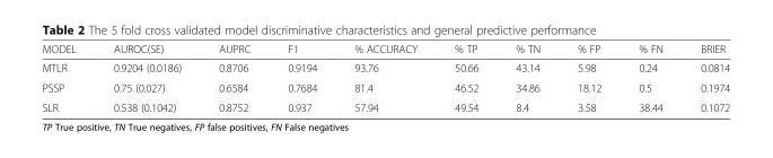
<table><thead><tr><td>MODEL</td><td>AUROC(SE)</td><td>AUPRC</td><td>F1</td><td>% ACCURACY</td><td>% TP</td><td>% TN</td><td>% FP</td><td>% FN</td><td>BRIER</td></tr></thead><tbody><tr><td>MTLR</td><td>0.9204 (0.0186)</td><td>0.8706</td><td>0.9194</td><td>93.76</td><td>50.66</td><td>43.14</td><td>5.98</td><td>0.24</td><td>0.0814</td></tr><tr><td>PSSP</td><td>0.75 (0.027)</td><td>0.6584</td><td>0.7684</td><td>81.4</td><td>46.52</td><td>34.86</td><td>18.12</td><td>0.5</td><td>0.1974</td></tr><tr><td>SLR</td><td>0.538 (0.1042)</td><td>0.8752</td><td>0.937</td><td>57.94</td><td>49.54</td><td>8.4</td><td>3.58</td><td>38.44</td><td>0.1072</td></tr></tbody></table>